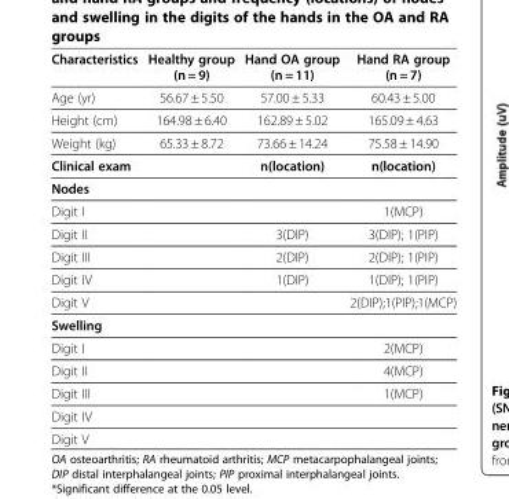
<table><thead><tr><td>Characteristics</td><td>Healthy group (n = 9)</td><td>Hand OA group (n = 11)</td><td>Hand RA group (n = 7)</td></tr></thead><tbody><tr><td>Age (yr)</td><td>56.67 ± 5.50</td><td>57.00 ± 5.33</td><td>60.43 ± 5.00</td></tr><tr><td>Height (cm)</td><td>164.98 ± 6.40</td><td>162.89 ± 5.02</td><td>165.09 ± 4.63</td></tr><tr><td>Weight (kg)</td><td>65.33 ± 8.72</td><td>73.66 ± 14.24</td><td>75.58 ± 14.90</td></tr><tr><td>Clinical exam</td><td></td><td>n(location)</td><td>n(location)</td></tr><tr><td colspan="4">Nodes</td></tr><tr><td>Digit I</td><td></td><td></td><td>1(MCP)</td></tr><tr><td>Digit II</td><td></td><td>3(DIP)</td><td>3(DIP); 1(PIP)</td></tr><tr><td>Digit III</td><td></td><td>2(DIP)</td><td>2(DIP); 1(PIP)</td></tr><tr><td>Digit IV</td><td></td><td>1(DIP)</td><td>1(DIP); 1(PIP)</td></tr><tr><td>Digit V</td><td></td><td></td><td>2(DIP);1(PIP);1(MCP)</td></tr><tr><td colspan="4">Swelling</td></tr><tr><td>Digit I</td><td></td><td></td><td>2(MCP)</td></tr><tr><td>Digit II</td><td></td><td></td><td>4(MCP)</td></tr><tr><td>Digit III</td><td></td><td></td><td>1(MCP)</td></tr><tr><td colspan="4">Digit IV</td></tr><tr><td>Digit V</td><td></td><td></td><td></td></tr></tbody></table>